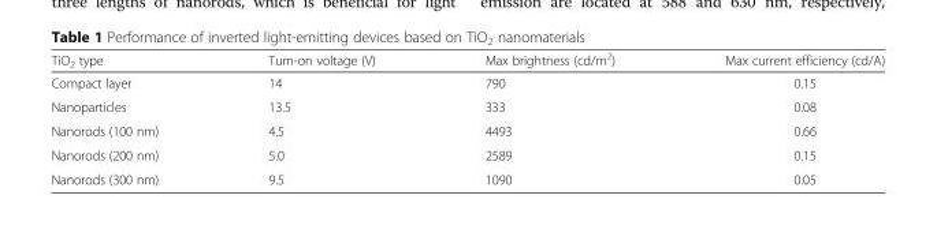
<table><thead><tr><td>TiO<sub>2</sub> type</td><td>Turn-on voltage (V)</td><td>Max brightness (cd/m<sup>2</sup>)</td><td>Max current efficiency (cd/A)</td></tr></thead><tbody><tr><td>Compact layer</td><td>14</td><td>790</td><td>0.15</td></tr><tr><td>Nanoparticles</td><td>13.5</td><td>333</td><td>0.08</td></tr><tr><td>Nanorods (100 nm)</td><td>4.5</td><td>4493</td><td>0.66</td></tr><tr><td>Nanorods (200 nm)</td><td>5.0</td><td>2589</td><td>0.15</td></tr><tr><td>Nanorods (300 nm)</td><td>9.5</td><td>1090</td><td>0.05</td></tr></tbody></table>